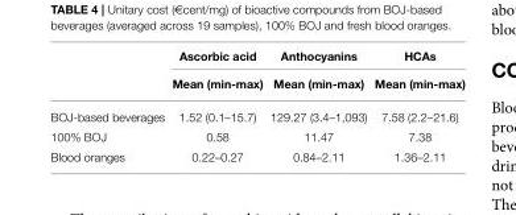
<table><thead><tr><td rowspan="2"></td><td rowspan="2">Ascorbic acid Mean (min-max)</td><td rowspan="2">Anthocyanins Mean (min-max)</td><td rowspan="2">HCAs Mean (min-max)</td></tr><tr></tr></thead><tbody><tr><td>BOJ-based beverages</td><td>1.52 (0.1–15.7)</td><td>129.27 (3.4–1,093)</td><td>7.58 (2.2–21.6)</td></tr><tr><td>100% BOJ</td><td>0.58</td><td>11.47</td><td>7.38</td></tr><tr><td>Blood oranges</td><td>0.22–0.27</td><td>0.84–2.11</td><td>1.36–2.11</td></tr></tbody></table>